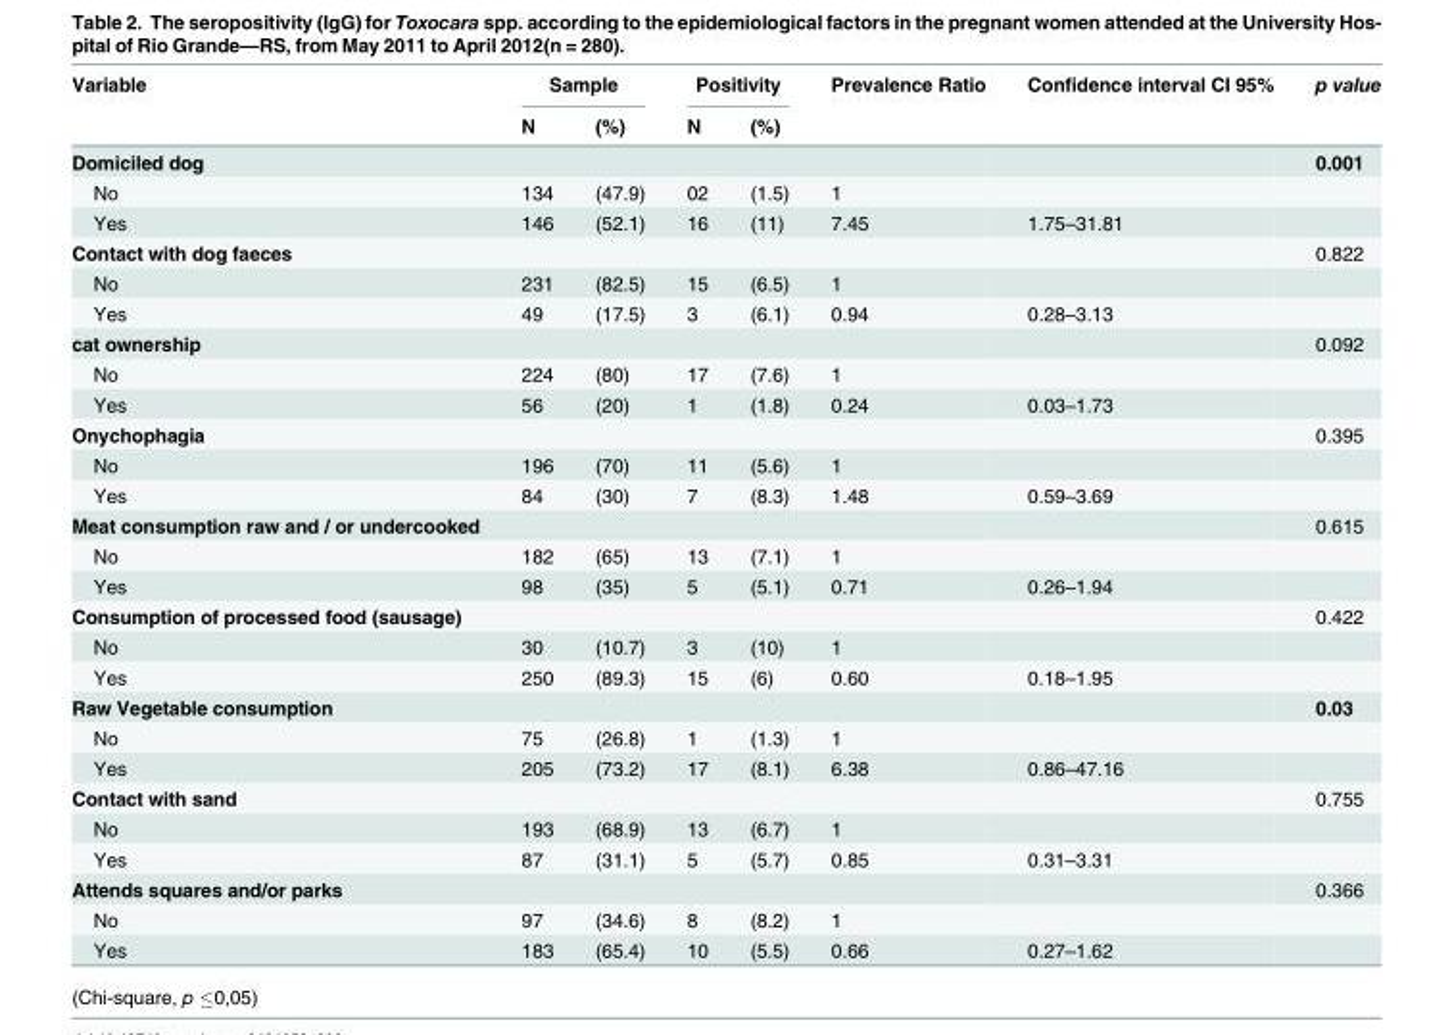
<table><thead><tr><td rowspan="2">Variable</td><td colspan="2">Sample</td><td colspan="2">Positivity</td><td rowspan="2">Prevalence Ratio</td><td rowspan="2">Confidence interval CI 95%</td><td rowspan="2">p value</td></tr><tr><td>N</td><td>(%)</td><td>N</td><td>(%)</td></tr></thead><tbody><tr><td>Domiciled dog</td><td></td><td></td><td></td><td></td><td></td><td></td><td>0.001</td></tr><tr><td>No</td><td>134</td><td>(47.9)</td><td>02</td><td>(1.5)</td><td>1</td><td></td><td></td></tr><tr><td>Yes</td><td>146</td><td>(52.1)</td><td>16</td><td>(11)</td><td>7.45</td><td>1.75–31.81</td><td></td></tr><tr><td>Contact with dog faeces</td><td></td><td></td><td></td><td></td><td></td><td></td><td>0.822</td></tr><tr><td>No</td><td>231</td><td>(82.5)</td><td>15</td><td>(6.5)</td><td>1</td><td></td><td></td></tr><tr><td>Yes</td><td>49</td><td>(17.5)</td><td>3</td><td>(6.1)</td><td>0.94</td><td>0.28–3.13</td><td></td></tr><tr><td>cat ownership</td><td></td><td></td><td></td><td></td><td></td><td></td><td>0.092</td></tr><tr><td>No</td><td>224</td><td>(80)</td><td>17</td><td>(7.6)</td><td>1</td><td></td><td></td></tr><tr><td>Yes</td><td>56</td><td>(20)</td><td>1</td><td>(1.8)</td><td>0.24</td><td>0.03–1.73</td><td></td></tr><tr><td>Onychophagia</td><td></td><td></td><td></td><td></td><td></td><td></td><td>0.395</td></tr><tr><td>No</td><td>196</td><td>(70)</td><td>11</td><td>(5.6)</td><td>1</td><td></td><td></td></tr><tr><td>Yes</td><td>84</td><td>(30)</td><td>7</td><td>(8.3)</td><td>1.48</td><td>0.59–3.69</td><td></td></tr><tr><td>Meat consumption raw and / or undercooked</td><td></td><td></td><td></td><td></td><td></td><td></td><td>0.615</td></tr><tr><td>No</td><td>182</td><td>(65)</td><td>13</td><td>(7.1)</td><td>1</td><td></td><td></td></tr><tr><td>Yes</td><td>98</td><td>(35)</td><td>5</td><td>(5.1)</td><td>0.71</td><td>0.26–1.94</td><td></td></tr><tr><td>Consumption of processed food (sausage)</td><td></td><td></td><td></td><td></td><td></td><td></td><td>0.422</td></tr><tr><td>No</td><td>30</td><td>(10.7)</td><td>3</td><td>(10)</td><td>1</td><td></td><td></td></tr><tr><td>Yes</td><td>250</td><td>(89.3)</td><td>15</td><td>(6)</td><td>0.60</td><td>0.18–1.95</td><td></td></tr><tr><td>Raw Vegetable consumption</td><td></td><td></td><td></td><td></td><td></td><td></td><td>0.03</td></tr><tr><td>No</td><td>75</td><td>(26.8)</td><td>1</td><td>(1.3)</td><td>1</td><td></td><td></td></tr><tr><td>Yes</td><td>205</td><td>(73.2)</td><td>17</td><td>(8.1)</td><td>6.38</td><td>0.86–47.16</td><td></td></tr><tr><td>Contact with sand</td><td></td><td></td><td></td><td></td><td></td><td></td><td>0.755</td></tr><tr><td>No</td><td>193</td><td>(68.9)</td><td>13</td><td>(6.7)</td><td>1</td><td></td><td></td></tr><tr><td>Yes</td><td>87</td><td>(31.1)</td><td>5</td><td>(5.7)</td><td>0.85</td><td>0.31–3.31</td><td></td></tr><tr><td>Attends squares and/or parks</td><td></td><td></td><td></td><td></td><td></td><td></td><td>0.366</td></tr><tr><td>No</td><td>97</td><td>(34.6)</td><td>8</td><td>(8.2)</td><td>1</td><td></td><td></td></tr><tr><td>Yes</td><td>183</td><td>(65.4)</td><td>10</td><td>(5.5)</td><td>0.66</td><td>0.27–1.62</td><td></td></tr></tbody></table>